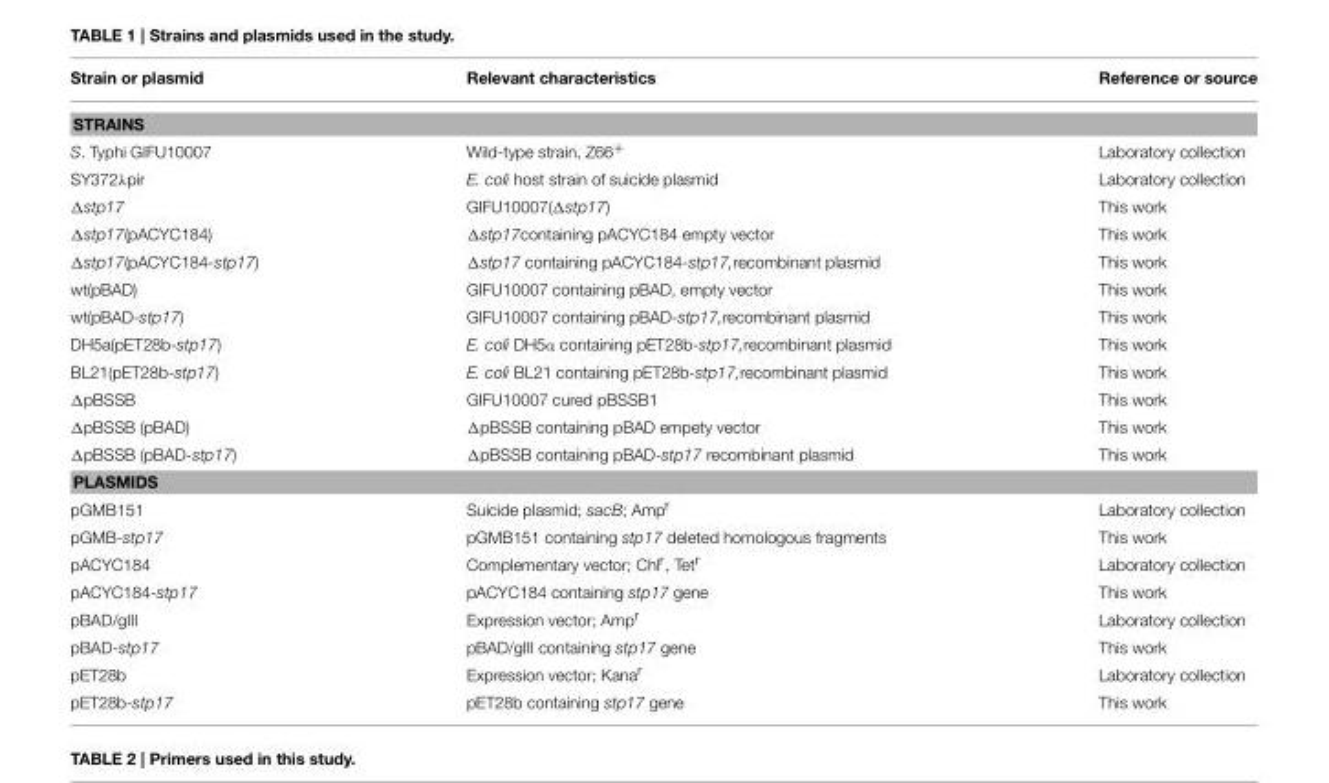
<table><thead><tr><td>Strain or plasmid</td><td>Relevant characteristics</td><td>Reference or source</td></tr></thead><tbody><tr><td colspan="3">STRAINS</td></tr><tr><td>S. Typhi GIFU10007</td><td>Wild-type strain, Z66<sup>+</sup></td><td>Laboratory collection</td></tr><tr><td>SY372λpir</td><td>E. coli host strain of suicide plasmid</td><td>Laboratory collection</td></tr><tr><td>Δstp17</td><td>GIFU10007(Δstp17)</td><td>This work</td></tr><tr><td>Δstp17(pACYC184)</td><td>Δstp17containing pACYC184 empty vector</td><td>This work</td></tr><tr><td>Δstp17(pACYC184-stp17)</td><td>Δstp17 containing pACYC184-stp17,recombinant plasmid</td><td>This work</td></tr><tr><td>wt(pBAD)</td><td>GIFU10007 containing pBAD, empty vector</td><td>This work</td></tr><tr><td>wt(pBAD-stp17)</td><td>GIFU10007 containing pBAD-stp17,recombinant plasmid</td><td>This work</td></tr><tr><td>DH5a(pET28b-stp17)</td><td>E. coli DH5A containing pET28b-stp17,recombinant plasmid</td><td>This work</td></tr><tr><td>BL21(pET28b-stp17)</td><td>E. coli BL21 containing pET28b-stp17,recombinant plasmid</td><td>This work</td></tr><tr><td>ΔpBSSB</td><td>GIFU10007 cured pBSSB1</td><td>This work</td></tr><tr><td>ΔpBSSB (pBAD)</td><td>ΔpBSSB containing pBAD empety vector</td><td>This work</td></tr><tr><td>ΔpBSSB (pBAD-stp17)</td><td>ΔpBSSB containing pBAD-stp17 recombinant plasmid</td><td>This work</td></tr><tr><td colspan="3">PLASMIDS</td></tr><tr><td>pGMB151</td><td>Suicide plasmid; sacB; Amp<sup>r</sup></td><td>Laboratory collection</td></tr><tr><td>pGMB-stp17</td><td>pGMB151 containing stp17 deleted homologous fragments</td><td>This work</td></tr><tr><td>pACYC184</td><td>Complementary vector; Chlr, Tet<sup>r</sup></td><td>Laboratory collection</td></tr><tr><td>pACYC184-stp17</td><td>pACYC184 containing stp17 gene</td><td>This work</td></tr><tr><td>pBAD/gIII</td><td>Expression vector; Amp<sup>r</sup></td><td>Laboratory collection</td></tr><tr><td>pBAD-stp17</td><td>pBAD/gIII containing stp17 gene</td><td>This work</td></tr><tr><td>pET28b</td><td>Expression vector; Kana<sup>r</sup></td><td>Laboratory collection</td></tr><tr><td>pET28b-stp17</td><td>pET28b containing stp17 gene</td><td>This work</td></tr></tbody></table>